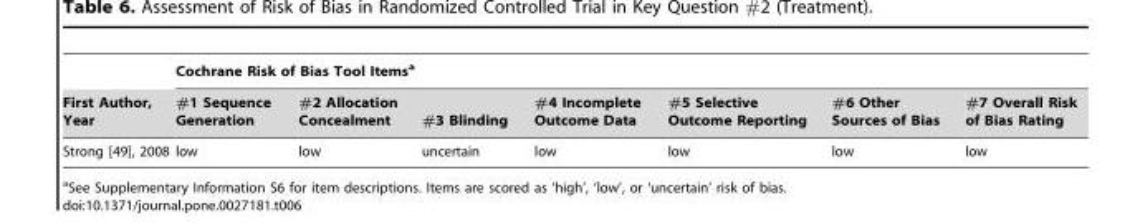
<table><thead><tr><td rowspan="2">First Author, Year</td><td colspan="7">Cochrane Risk of Bias Tool Items<sup>a</sup></td></tr><tr><td>#1 Sequence Generation</td><td>#2 Allocation Concealment</td><td>#3 Blinding</td><td>#4 Incomplete Outcome Data</td><td>#5 Selective Outcome Reporting</td><td>#6 Other Sources of Bias</td><td>#7 Overall Risk of Bias Rating</td></tr></thead><tbody><tr><td>Strong [49], 2008</td><td>low</td><td>low</td><td>uncertain</td><td>low</td><td>low</td><td>low</td><td>low</td></tr></tbody></table>